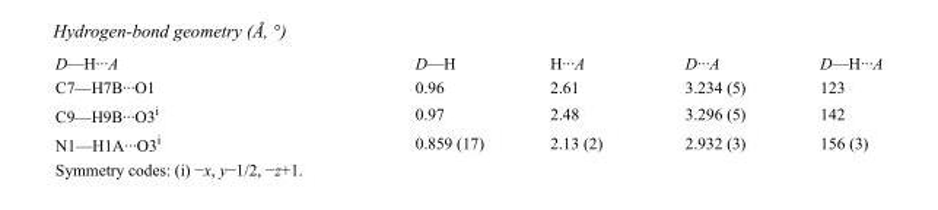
<table><tbody><tr><td>D—H···A</td><td>D—H</td><td>H···A</td><td>D···A</td><td>D—H···A</td></tr><tr><td>C7—H7B···O1</td><td>0.96</td><td>2.61</td><td>3.234 (5)</td><td>123</td></tr><tr><td>C9—H9B···O3<sup>i</sup></td><td>0.97</td><td>2.48</td><td>3.296 (5)</td><td>142</td></tr><tr><td>N1—H1A···O3<sup>i</sup></td><td>0.859 (17)</td><td>2.13 (2)</td><td>2.932 (3)</td><td>156 (3)</td></tr></tbody></table>